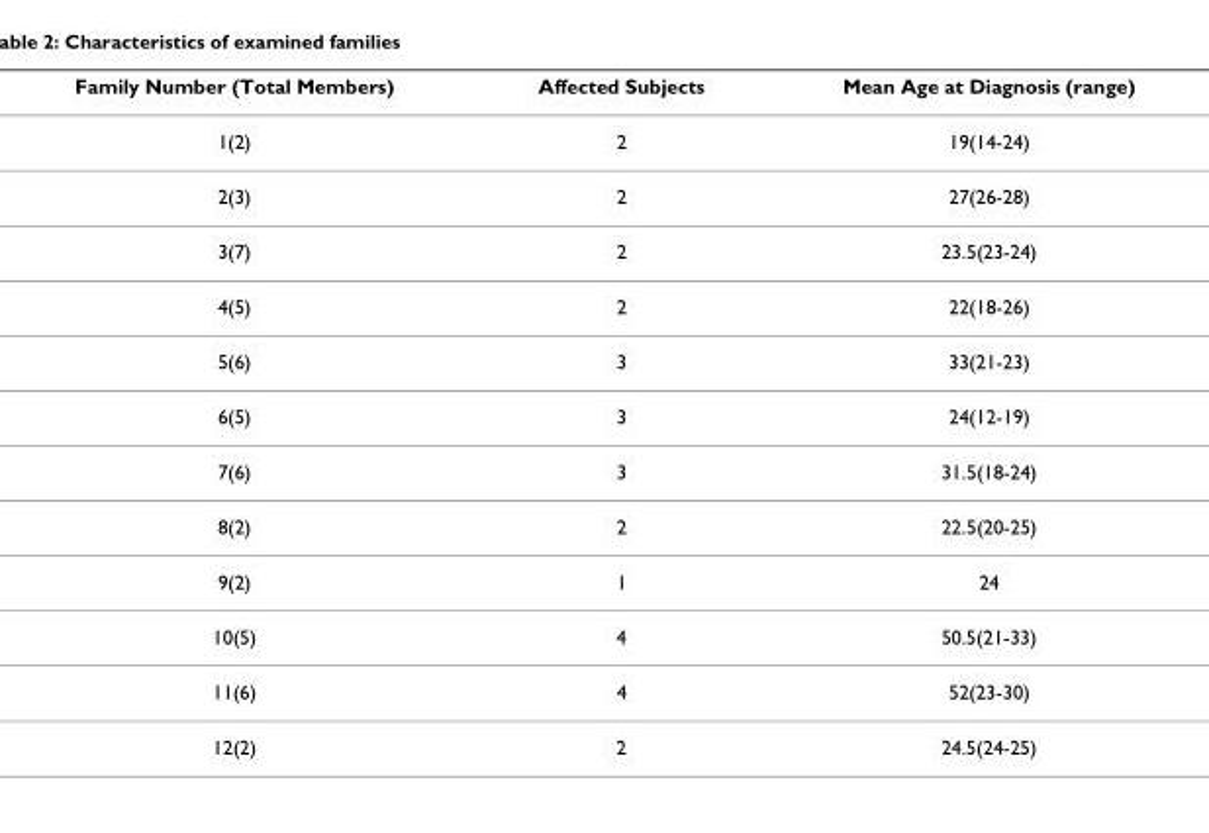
<table><thead><tr><td>Family Number (Total Members)</td><td>Affected Subjects</td><td>Mean Age at Diagnosis (range)</td></tr></thead><tbody><tr><td>1(2)</td><td>2</td><td>19(14-24)</td></tr><tr><td>2(3)</td><td>2</td><td>27(26-28)</td></tr><tr><td>3(7)</td><td>2</td><td>23.5(23-24)</td></tr><tr><td>4(5)</td><td>2</td><td>22(18-26)</td></tr><tr><td>5(6)</td><td>3</td><td>33(21-23)</td></tr><tr><td>6(5)</td><td>3</td><td>24(12-19)</td></tr><tr><td>7(6)</td><td>3</td><td>31.5(18-24)</td></tr><tr><td>8(2)</td><td>2</td><td>22.5(20-25)</td></tr><tr><td>9(2)</td><td>1</td><td>24</td></tr><tr><td>10(5)</td><td>4</td><td>50.5(21-33)</td></tr><tr><td>11(6)</td><td>4</td><td>52(23-30)</td></tr><tr><td>12(2)</td><td>2</td><td>24.5(24-25)</td></tr></tbody></table>